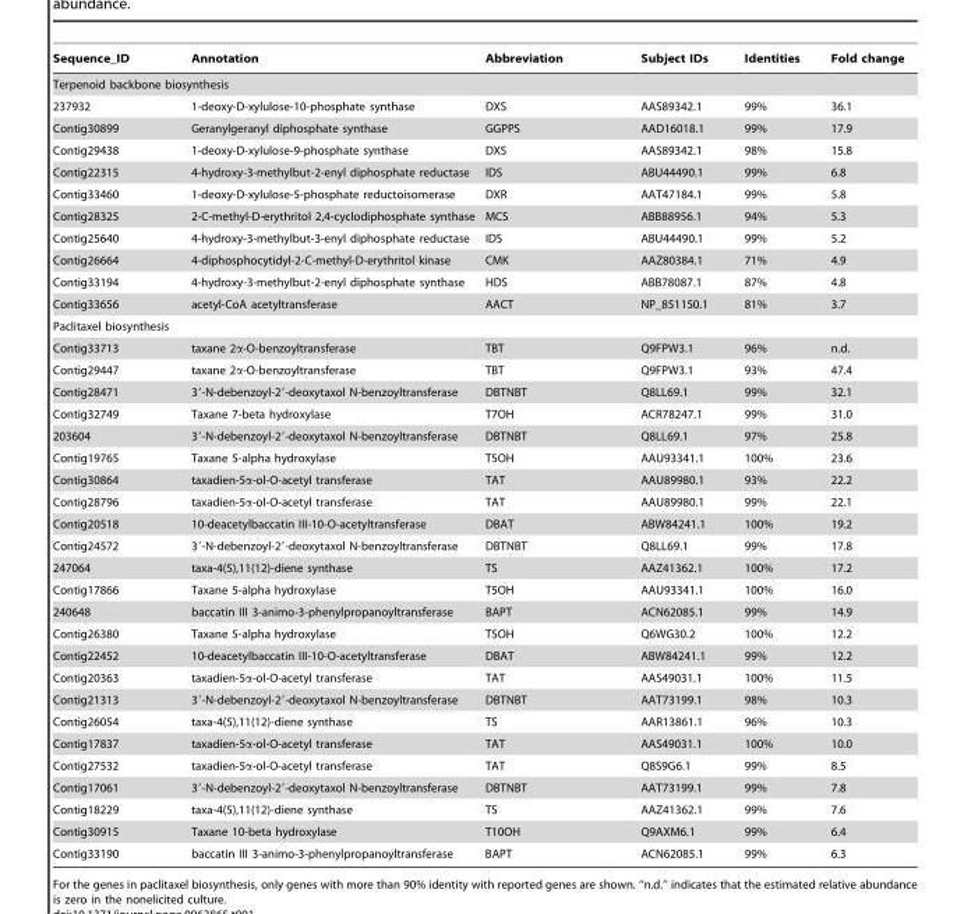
<table><thead><tr><td>Sequence_ID</td><td>Annotation</td><td>Abbreviation</td><td>Subject IDs</td><td>Identities</td><td>Fold change</td></tr></thead><tbody><tr><td colspan="6">Terpenoid backbone biosynthesis</td></tr><tr><td>237932</td><td>1-deoxy-D-xylulose-10-phosphate synthase</td><td>DXS</td><td>AAS89342.1</td><td>99%</td><td>36.1</td></tr><tr><td>Contig30899</td><td>Geranylgeranyl diphosphate synthase</td><td>GGPPS</td><td>AAD16018.1</td><td>99%</td><td>17.9</td></tr><tr><td>Contig29438</td><td>1-deoxy-D-xylulose-9-phosphate synthase</td><td>DXS</td><td>AAS89342.1</td><td>98%</td><td>15.8</td></tr><tr><td>Contig22315</td><td>4-hydroxy-3-methylbut-2-enyl diphosphate reductase</td><td>IDS</td><td>ABU44490.1</td><td>99%</td><td>6.8</td></tr><tr><td>Contig33460</td><td>1-deoxy-D-xylulose-5-phosphate reductoisomerase</td><td>DXR</td><td>AAT47184.1</td><td>99%</td><td>5.8</td></tr><tr><td>Contig28325</td><td>2-C-methyl-D-erythritol 2,4-cyclodiphosphate synthase</td><td>MCS</td><td>ABB88956.1</td><td>94%</td><td>5.3</td></tr><tr><td>Contig25640</td><td>4-hydroxy-3-methylbut-3-enyl diphosphate reductase</td><td>IDS</td><td>ABU44490.1</td><td>99%</td><td>5.2</td></tr><tr><td>Contig26664</td><td>4-diphosphocytidyl-2-C-methyl-D-erythritol kinase</td><td>CMK</td><td>AAZ80384.1</td><td>71%</td><td>4.9</td></tr><tr><td>Contig33194</td><td>4-hydroxy-3-methylbut-2-enyl diphosphate synthase</td><td>HDS</td><td>ABB78087.1</td><td>87%</td><td>4.8</td></tr><tr><td>Contig33656</td><td>acetyl-CoA acetyltransferase</td><td>AACT</td><td>NP_851150.1</td><td>81%</td><td>3.7</td></tr><tr><td colspan="6">Paclitaxel biosynthesis</td></tr><tr><td>Contig33713</td><td>taxane 2α-O-benzoyltransferase</td><td>TBT</td><td>Q9FPW3.1</td><td>96%</td><td>n.d.</td></tr><tr><td>Contig29447</td><td>taxane 2α-O-benzoyltransferase</td><td>TBT</td><td>Q9FPW3.1</td><td>93%</td><td>47.4</td></tr><tr><td>Contig28471</td><td>3′-N-debenzoyl-2′-deoxytaxol N-benzoyltransferase</td><td>DBTNBT</td><td>Q8LL69.1</td><td>99%</td><td>32.1</td></tr><tr><td>Contig32749</td><td>Taxane 7-beta hydroxylase</td><td>T7OH</td><td>ACR78247.1</td><td>99%</td><td>31.0</td></tr><tr><td>203604</td><td>3′-N-debenzoyl-2′-deoxytaxol N-benzoyltransferase</td><td>DBTNBT</td><td>Q8LL69.1</td><td>97%</td><td>25.8</td></tr><tr><td>Contig19765</td><td>Taxane 5-alpha hydroxylase</td><td>T5OH</td><td>AAU93341.1</td><td>100%</td><td>23.6</td></tr><tr><td>Contig30864</td><td>taxadien-5α-ol-O-acetyl transferase</td><td>TAT</td><td>AAU89980.1</td><td>93%</td><td>22.2</td></tr><tr><td>Contig28796</td><td>taxadien-5α-ol-O-acetyl transferase</td><td>TAT</td><td>AAU89980.1</td><td>99%</td><td>22.1</td></tr><tr><td>Contig20518</td><td>10-deacetylbaccatin III-10-O-acetyltransferase</td><td>DBAT</td><td>ABW84241.1</td><td>100%</td><td>19.2</td></tr><tr><td>Contig24572</td><td>3′-N-debenzoyl-2′-deoxytaxol N-benzoyltransferase</td><td>DBTNBT</td><td>Q8LL69.1</td><td>99%</td><td>17.8</td></tr><tr><td>247064</td><td>taxa-4(5),11(12)-diene synthase</td><td>TS</td><td>AAZ41362.1</td><td>100%</td><td>17.2</td></tr><tr><td>Contig17866</td><td>Taxane 5-alpha hydroxylase</td><td>T5OH</td><td>AAU93341.1</td><td>100%</td><td>16.0</td></tr><tr><td>240648</td><td>baccatin III 3-animo-3-phenylpropanoyltransferase</td><td>BAPT</td><td>ACN62085.1</td><td>99%</td><td>14.9</td></tr><tr><td>Contig26380</td><td>Taxane 5-alpha hydroxylase</td><td>T5OH</td><td>Q6WG30.2</td><td>100%</td><td>12.2</td></tr><tr><td>Contig22452</td><td>10-deacetylbaccatin III-10-O-acetyltransferase</td><td>DBAT</td><td>ABW84241.1</td><td>99%</td><td>12.2</td></tr><tr><td>Contig20363</td><td>taxadien-5α-ol-O-acetyl transferase</td><td>TAT</td><td>AAS49031.1</td><td>100%</td><td>11.5</td></tr><tr><td>Contig21313</td><td>3′-N-debenzoyl-2′-deoxytaxol N-benzoyltransferase</td><td>DBTNBT</td><td>AAT73199.1</td><td>98%</td><td>10.3</td></tr><tr><td>Contig26054</td><td>taxa-4(5),11(12)-diene synthase</td><td>TS</td><td>AAR13861.1</td><td>96%</td><td>10.3</td></tr><tr><td>Contig17837</td><td>taxadien-5α-ol-O-acetyl transferase</td><td>TAT</td><td>AAS49031.1</td><td>100%</td><td>10.0</td></tr><tr><td>Contig27532</td><td>taxadien-5α-ol-O-acetyl transferase</td><td>TAT</td><td>Q8S9G6.1</td><td>99%</td><td>8.5</td></tr><tr><td>Contig17061</td><td>3′-N-debenzoyl-2′-deoxytaxol N-benzoyltransferase</td><td>DBTNBT</td><td>AAT73199.1</td><td>99%</td><td>7.8</td></tr><tr><td>Contig18229</td><td>taxa-4(5),11(12)-diene synthase</td><td>TS</td><td>AAZ41362.1</td><td>99%</td><td>7.6</td></tr><tr><td>Contig30915</td><td>Taxane 10-beta hydroxylase</td><td>T10OH</td><td>Q9AXM6.1</td><td>99%</td><td>6.4</td></tr><tr><td>Contig33190</td><td>baccatin III 3-animo-3-phenylpropanoyltransferase</td><td>BAPT</td><td>ACN62085.1</td><td>99%</td><td>6.3</td></tr></tbody></table>